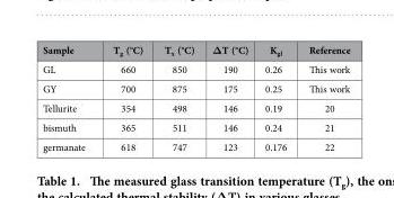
<table><thead><tr><td>Sample</td><td>T<sub>g</sub> (°C)</td><td>T<sub>x</sub> (°C)</td><td>ΔT (°C)</td><td>K<sub>gl</sub></td><td>Reference</td></tr></thead><tbody><tr><td>GL</td><td>660</td><td>850</td><td>190</td><td>0.26</td><td>This work</td></tr><tr><td>GY</td><td>700</td><td>875</td><td>175</td><td>0.25</td><td>This work</td></tr><tr><td>Tellurite</td><td>354</td><td>498</td><td>146</td><td>0.19</td><td>20</td></tr><tr><td>bismuth</td><td>365</td><td>511</td><td>146</td><td>0.24</td><td>21</td></tr><tr><td>germanate</td><td>618</td><td>747</td><td>123</td><td>0.176</td><td>22</td></tr></tbody></table>